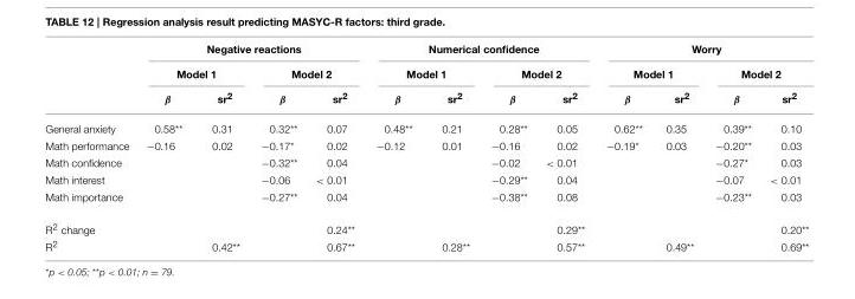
<table><thead><tr><td rowspan="3"></td><td colspan="4">Negative reactions</td><td colspan="4">Numerical confidence</td><td colspan="4">Worry</td></tr><tr><td colspan="2">Model 1</td><td colspan="2">Model 2</td><td colspan="2">Model 1</td><td colspan="2">Model 2</td><td colspan="2">Model 1</td><td colspan="2">Model 2</td></tr><tr><td>β</td><td>sr2</td><td>β</td><td>sr<sup>2</sup></td><td>β</td><td>sr<sup>2</sup></td><td>β</td><td>sr<sup>2</sup></td><td>β</td><td>sr<sup>2</sup></td><td>β</td><td>sr<sup>2</sup></td></tr></thead><tbody><tr><td>General anxiety</td><td>0.58**</td><td>0.31</td><td>0.32**</td><td>0.07</td><td>0.48**</td><td>0.21</td><td>0.28**</td><td>0.05</td><td>0.62**</td><td>0.35</td><td>0.39**</td><td>0.10</td></tr><tr><td>Math performance</td><td>−0.16</td><td>0.02</td><td>−0.17*</td><td>0.02</td><td>−0.12</td><td>0.01</td><td>−0.16</td><td>0.02</td><td>−0.19*</td><td>0.03</td><td>−0.20**</td><td>0.03</td></tr><tr><td>Math confidence</td><td></td><td></td><td>−0.32**</td><td>0.04</td><td></td><td></td><td>−0.02</td><td>&lt; 0.01</td><td></td><td></td><td>−0.27*</td><td>0.03</td></tr><tr><td>Math interest</td><td></td><td></td><td>−0.06</td><td>&lt; 0.01</td><td></td><td></td><td>−0.29**</td><td>0.04</td><td></td><td></td><td>−0.07</td><td>&lt; 0.01</td></tr><tr><td>Math importance</td><td></td><td></td><td>−0.27**</td><td>0.04</td><td></td><td></td><td>−0.38**</td><td>0.08</td><td></td><td></td><td>−0.23**</td><td>0.03</td></tr><tr><td>R<sup>2</sup> change</td><td></td><td></td><td></td><td>0.24**</td><td></td><td></td><td></td><td>0.29**</td><td></td><td></td><td></td><td>0.20**</td></tr><tr><td>R<sup>2</sup></td><td></td><td>0.42**</td><td></td><td>0.67**</td><td></td><td>0.28**</td><td></td><td>0.57**</td><td></td><td>0.49**</td><td></td><td>0.69**</td></tr></tbody></table>